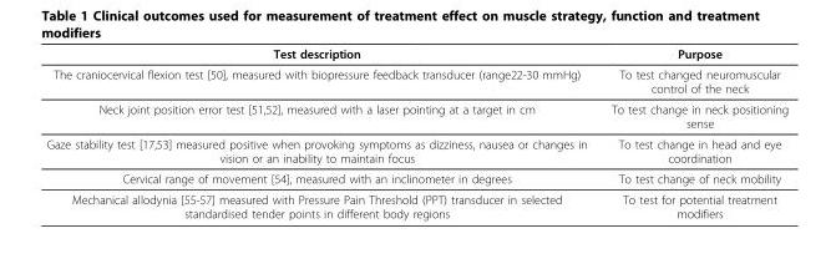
<table><thead><tr><td>Test description</td><td>Purpose</td></tr></thead><tbody><tr><td>The craniocervical flexion test [50], measured with biopressure feedback transducer (range22-30 mmHg)</td><td>To test changed neuromuscular control of the neck</td></tr><tr><td>Neck joint position error test [51,52], measured with a laser pointing at a target in cm</td><td>To test change in neck positioning sense</td></tr><tr><td>Gaze stability test [17,53] measured positive when provoking symptoms as dizziness, nausea or changes in vision or an inability to maintain focus</td><td>To test change in head and eye coordination</td></tr><tr><td>Cervical range of movement [54], measured with an inclinometer in degrees</td><td>To test change of neck mobility</td></tr><tr><td>Mechanical allodynia [55-57] measured with Pressure Pain Threshold (PPT) transducer in selected standardised tender points in different body regions</td><td>To test for potential treatment modifiers</td></tr></tbody></table>